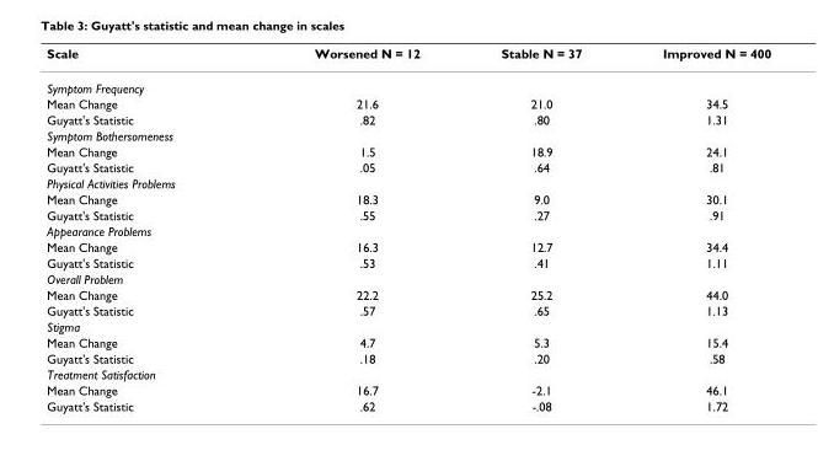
<table><thead><tr><td>Scale</td><td>Worsened N = 12</td><td>Stable N = 37</td><td>Improved N = 400</td></tr></thead><tbody><tr><td colspan="4">Symptom Frequency</td></tr><tr><td>Mean Change</td><td>21.6</td><td>21.0</td><td>34.5</td></tr><tr><td>Guyatt&#x27;s Statistic</td><td>.82</td><td>.80</td><td>1.31</td></tr><tr><td colspan="4">Symptom Bothersomeness</td></tr><tr><td>Mean Change</td><td>1.5</td><td>18.9</td><td>24.1</td></tr><tr><td>Guyatt&#x27;s Statistic</td><td>.05</td><td>.64</td><td>.81</td></tr><tr><td colspan="4">Physical Activities Problems</td></tr><tr><td>Mean Change</td><td>18.3</td><td>9.0</td><td>30.1</td></tr><tr><td>Guyatt&#x27;s Statistic</td><td>.55</td><td>.27</td><td>.91</td></tr><tr><td colspan="4">Appearance Problems</td></tr><tr><td>Mean Change</td><td>16.3</td><td>12.7</td><td>34.4</td></tr><tr><td>Guyatt&#x27;s Statistic</td><td>.53</td><td>.41</td><td>1.11</td></tr><tr><td colspan="4">Overall Problem</td></tr><tr><td>Mean Change</td><td>22.2</td><td>25.2</td><td>44.0</td></tr><tr><td>Guyatt&#x27;s Statistic</td><td>.57</td><td>.65</td><td>1.13</td></tr><tr><td colspan="4">Stigma</td></tr><tr><td>Mean Change</td><td>4.7</td><td>5.3</td><td>15.4</td></tr><tr><td>Guyatt&#x27;s Statistic</td><td>.18</td><td>.20</td><td>.58</td></tr><tr><td colspan="4">Treatment Satisfaction</td></tr><tr><td>Mean Change</td><td>16.7</td><td>-2.1</td><td>46.1</td></tr><tr><td>Guyatt&#x27;s Statistic</td><td>.62</td><td>-.08</td><td>1.72</td></tr></tbody></table>